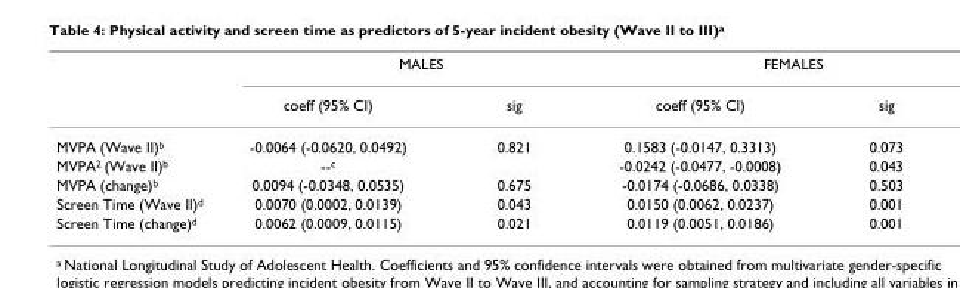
<table><thead><tr><td rowspan="2"></td><td colspan="2">MALES</td><td colspan="2">FEMALES</td></tr><tr><td>coeff (95% CI)</td><td>sig</td><td>coeff (95% CI)</td><td>sig</td></tr></thead><tbody><tr><td>MVPA (Wave II)<sup>b</sup></td><td>-0.0064 (-0.0620, 0.0492)</td><td>0.821</td><td>0.1583 (-0.0147, 0.3313)</td><td>0.073</td></tr><tr><td>MVPA<sup>2</sup> (Wave II)<sup>b</sup></td><td>--<sup>c</sup></td><td></td><td>-0.0242 (-0.0477, -0.0008)</td><td>0.043</td></tr><tr><td>MVPA (change)<sup>b</sup></td><td>0.0094 (-0.0348, 0.0535)</td><td>0.675</td><td>-0.0174 (-0.0686, 0.0338)</td><td>0.503</td></tr><tr><td>Screen Time (Wave II)<sup>d</sup></td><td>0.0070 (0.0002, 0.0139)</td><td>0.043</td><td>0.0150 (0.0062, 0.0237)</td><td>0.001</td></tr><tr><td>Screen Time (change)<sup>d</sup></td><td>0.0062 (0.0009, 0.0115)</td><td>0.021</td><td>0.0119 (0.0051, 0.0186)</td><td>0.001</td></tr></tbody></table>